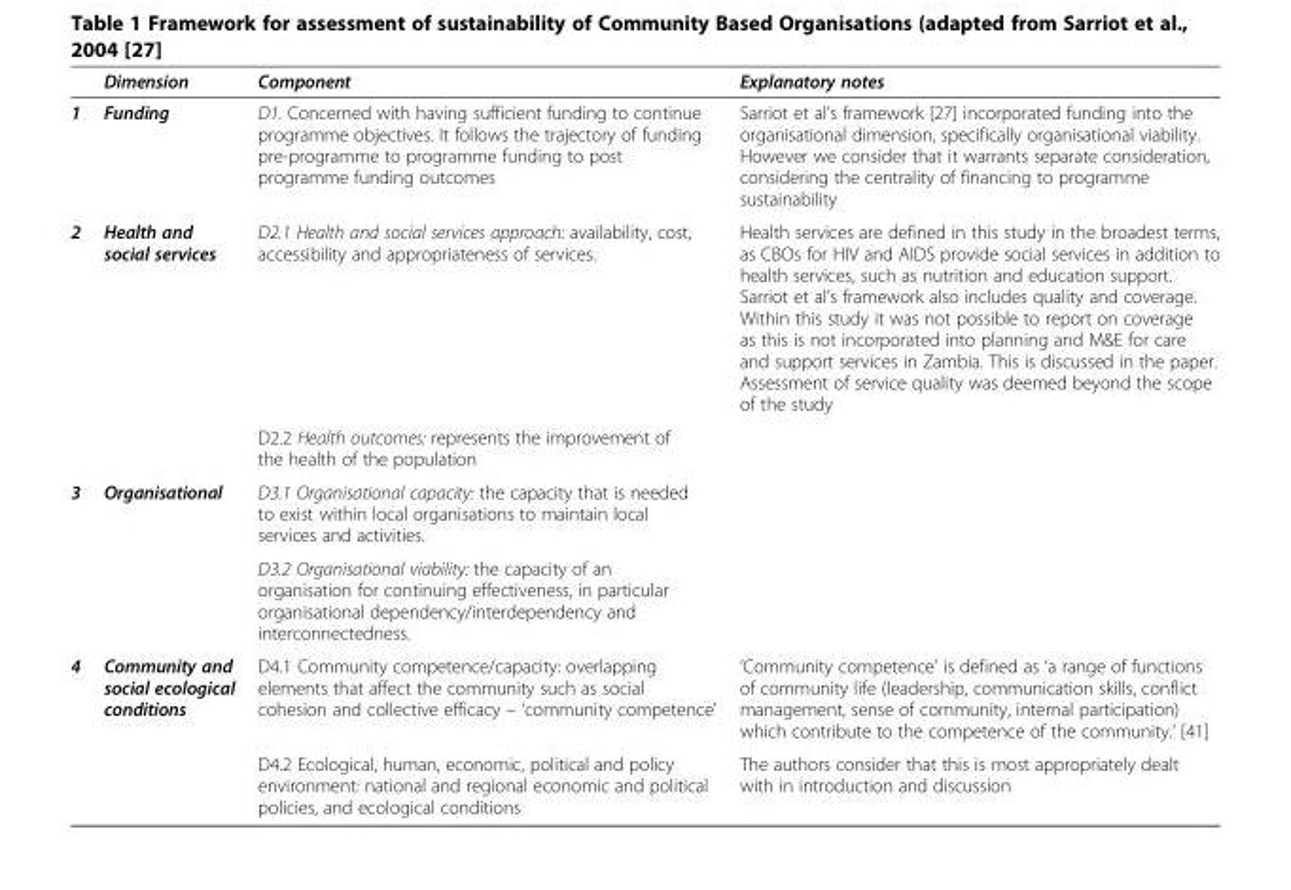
<table><thead><tr><td></td><td>Dimension</td><td>Component</td><td>Explanatory notes</td></tr></thead><tbody><tr><td>1</td><td>Funding</td><td>D1. Concerned with having sufficient funding to continue programme objectives. It follows the trajectory of funding pre-programme to programme funding to post programme funding outcomes</td><td>Sarriot et al’s framework [27] incorporated funding into the organisational dimension, specifically organisational viability. However we consider that it warrants separate consideration, considering the centrality of financing to programme sustainability</td></tr><tr><td rowspan="2">2</td><td>Health and social services</td><td>D2.1 Health and social services approach: availability, cost, accessibility and appropriateness of services.</td><td>Health services are defined in this study in the broadest terms, as CBOs for HIV and AIDS provide social services in addition to health services, such as nutrition and education support. Sarriot et al’s framework also includes quality and coverage. Within this study it was not possible to report on coverage as this is not incorporated into planning and M&amp;E for care and support services in Zambia. This is discussed in the paper. Assessment of service quality was deemed beyond the scope of the study</td></tr><tr><td></td><td>D2.2 Health outcomes: represents the improvement of the health of the population</td><td></td></tr><tr><td rowspan="2">3</td><td>Organisational</td><td>D3.1 Organisational capacity: the capacity that is needed to exist within local organisations to maintain local services and activities.</td><td></td></tr><tr><td></td><td>D3.2 Organisational viability: the capacity of an organisation for continuing effectiveness, in particular organisational dependency/interdependency and interconnectedness.</td><td></td></tr><tr><td rowspan="2">4</td><td>Community and social ecological conditions</td><td>D4.1 Community competence/capacity: overlapping elements that affect the community such as social cohesion and collective efficacy – ‘community competence’</td><td>‘Community competence’ is defined as ‘a range of functions of community life (leadership, communication skills, conflict management, sense of community, internal participation) which contribute to the competence of the community.’ [41]</td></tr><tr><td></td><td>D4.2 Ecological, human, economic, political and policy environment: national and regional economic and political policies, and ecological conditions</td><td>The authors consider that this is most appropriately dealt with in introduction and discussion</td></tr></tbody></table>